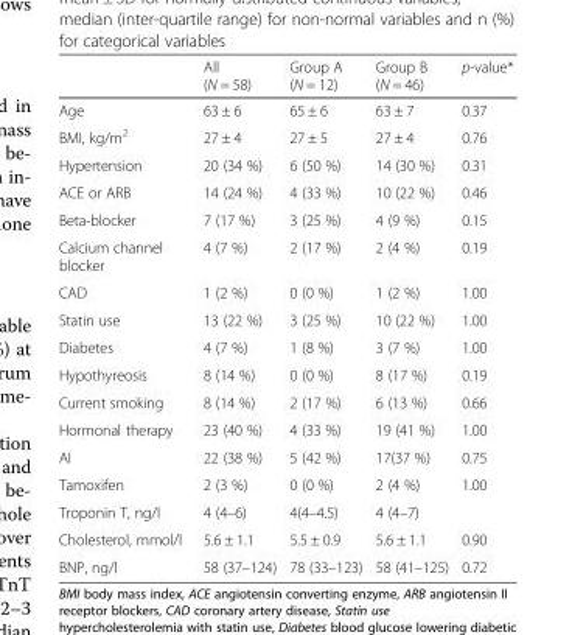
<table><thead><tr><td></td><td>All (N = 58)</td><td>Group A (N = 12)</td><td>Group B (N = 46)</td><td>p-value*</td></tr></thead><tbody><tr><td>Age</td><td>63 ± 6</td><td>65 ± 6</td><td>63 ± 7</td><td>0.37</td></tr><tr><td>BMI, kg/m<sup>2</sup></td><td>27 ± 4</td><td>27 ± 5</td><td>27 ± 4</td><td>0.76</td></tr><tr><td>Hypertension</td><td>20 (34 %)</td><td>6 (50 %)</td><td>14 (30 %)</td><td>0.31</td></tr><tr><td>ACE or ARB</td><td>14 (24 %)</td><td>4 (33 %)</td><td>10 (22 %)</td><td>0.46</td></tr><tr><td>Beta-blocker</td><td>7 (17 %)</td><td>3 (25 %)</td><td>4 (9 %)</td><td>0.15</td></tr><tr><td>Calcium channel blocker</td><td>4 (7 %)</td><td>2 (17 %)</td><td>2 (4 %)</td><td>0.19</td></tr><tr><td>CAD</td><td>1 (2 %)</td><td>0 (0 %)</td><td>1 (2 %)</td><td>1.00</td></tr><tr><td>Statin use</td><td>13 (22 %)</td><td>3 (25 %)</td><td>10 (22 %)</td><td>1.00</td></tr><tr><td>Diabetes</td><td>4 (7 %)</td><td>1 (8 %)</td><td>3 (7 %)</td><td>1.00</td></tr><tr><td>Hypothyreosis</td><td>8 (14 %)</td><td>0 (0 %)</td><td>8 (17 %)</td><td>0.19</td></tr><tr><td>Current smoking</td><td>8 (14 %)</td><td>2 (17 %)</td><td>6 (13 %)</td><td>0.66</td></tr><tr><td>Hormonal therapy</td><td>23 (40 %)</td><td>4 (33 %)</td><td>19 (41 %)</td><td>1.00</td></tr><tr><td>AI</td><td>22 (38 %)</td><td>5 (42 %)</td><td>17(37 %)</td><td>0.75</td></tr><tr><td>Tamoxifen</td><td>2 (3 %)</td><td>0 (0 %)</td><td>2 (4 %)</td><td>1.00</td></tr><tr><td>Troponin T, ng/l</td><td>4 (4–6)</td><td>4(4–4.5)</td><td>4 (4–7)</td><td></td></tr><tr><td>Cholesterol, mmol/l</td><td>5.6 ± 1.1</td><td>5.5 ± 0.9</td><td>5.6 ± 1.1</td><td>0.90</td></tr><tr><td>BNP, ng/l</td><td>58 (37–124)</td><td>78 (33–123)</td><td>58 (41–125)</td><td>0.72</td></tr></tbody></table>